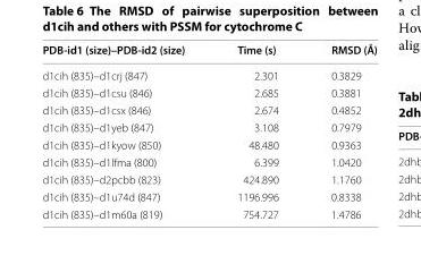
<table><thead><tr><td>PDB‑id1 (size)–PDB‑id2 (size)</td><td>Time (s)</td><td>RMSD (Å)</td></tr></thead><tbody><tr><td>d1cih (835)–d1crj (847)</td><td>2.301</td><td>0.3829</td></tr><tr><td>d1cih (835)–d1csu (846)</td><td>2.685</td><td>0.3881</td></tr><tr><td>d1cih (835)–d1csx (846)</td><td>2.674</td><td>0.4852</td></tr><tr><td>d1cih (835)–d1yeb (847)</td><td>3.108</td><td>0.7979</td></tr><tr><td>d1cih (835)–d1kyow (850)</td><td>48.480</td><td>0.9363</td></tr><tr><td>d1cih (835)–d1lfma (800)</td><td>6.399</td><td>1.0420</td></tr><tr><td>d1cih (835)–d2pcbb (823)</td><td>424.890</td><td>1.1760</td></tr><tr><td>d1cih (835)–d1u74d (847)</td><td>1196.996</td><td>0.8338</td></tr><tr><td>d1cih (835)–d1m60a (819)</td><td>754.727</td><td>1.4786</td></tr></tbody></table>